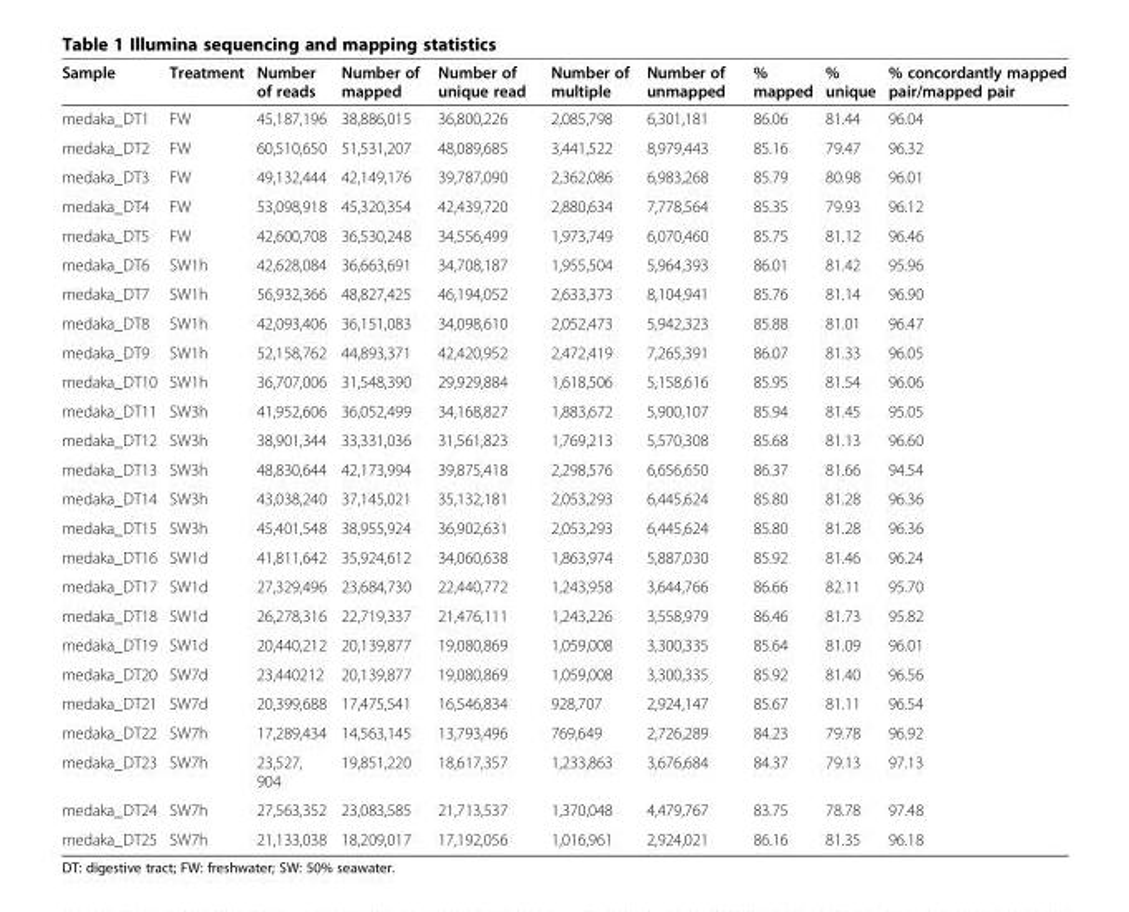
<table><thead><tr><td>Sample</td><td>Treatment</td><td>Number of reads</td><td>Number of mapped</td><td>Number of unique read</td><td>Number of multiple</td><td>Number of unmapped</td><td>% mapped</td><td>% unique</td><td>% concordantly mapped pair/mapped pair</td></tr></thead><tbody><tr><td>medaka_DT1</td><td>FW</td><td>45,187,196</td><td>38,886,015</td><td>36,800,226</td><td>2,085,798</td><td>6,301,181</td><td>86.06</td><td>81.44</td><td>96.04</td></tr><tr><td>medaka_DT2</td><td>FW</td><td>60,510,650</td><td>51,531,207</td><td>48,089,685</td><td>3,441,522</td><td>8,979,443</td><td>85.16</td><td>79.47</td><td>96.32</td></tr><tr><td>medaka_DT3</td><td>FW</td><td>49,132,444</td><td>42,149,176</td><td>39,787,090</td><td>2,362,086</td><td>6,983,268</td><td>85.79</td><td>80.98</td><td>96.01</td></tr><tr><td>medaka_DT4</td><td>FW</td><td>53,098,918</td><td>45,320,354</td><td>42,439,720</td><td>2,880,634</td><td>7,778,564</td><td>85.35</td><td>79.93</td><td>96.12</td></tr><tr><td>medaka_DT5</td><td>FW</td><td>42,600,708</td><td>36,530,248</td><td>34,556,499</td><td>1,973,749</td><td>6,070,460</td><td>85.75</td><td>81.12</td><td>96.46</td></tr><tr><td>medaka_DT6</td><td>SW1h</td><td>42,628,084</td><td>36,663,691</td><td>34,708,187</td><td>1,955,504</td><td>5,964,393</td><td>86.01</td><td>81.42</td><td>95.96</td></tr><tr><td>medaka_DT7</td><td>SW1h</td><td>56,932,366</td><td>48,827,425</td><td>46,194,052</td><td>2,633,373</td><td>8,104,941</td><td>85.76</td><td>81.14</td><td>96.90</td></tr><tr><td>medaka_DT8</td><td>SW1h</td><td>42,093,406</td><td>36,151,083</td><td>34,098,610</td><td>2,052,473</td><td>5,942,323</td><td>85.88</td><td>81.01</td><td>96.47</td></tr><tr><td>medaka_DT9</td><td>SW1h</td><td>52,158,762</td><td>44,893,371</td><td>42,420,952</td><td>2,472,419</td><td>7,265,391</td><td>86.07</td><td>81.33</td><td>96.05</td></tr><tr><td>medaka_DT10</td><td>SW1h</td><td>36,707,006</td><td>31,548,390</td><td>29,929,884</td><td>1,618,506</td><td>5,158,616</td><td>85.95</td><td>81.54</td><td>96.06</td></tr><tr><td>medaka_DT11</td><td>SW3h</td><td>41,952,606</td><td>36,052,499</td><td>34,168,827</td><td>1,883,672</td><td>5,900,107</td><td>85.94</td><td>81.45</td><td>95.05</td></tr><tr><td>medaka_DT12</td><td>SW3h</td><td>38,901,344</td><td>33,331,036</td><td>31,561,823</td><td>1,769,213</td><td>5,570,308</td><td>85.68</td><td>81.13</td><td>96.60</td></tr><tr><td>medaka_DT13</td><td>SW3h</td><td>48,830,644</td><td>42,173,994</td><td>39,875,418</td><td>2,298,576</td><td>6,656,650</td><td>86.37</td><td>81.66</td><td>94.54</td></tr><tr><td>medaka_DT14</td><td>SW3h</td><td>43,038,240</td><td>37,145,021</td><td>35,132,181</td><td>2,053,293</td><td>6,445,624</td><td>85.80</td><td>81.28</td><td>96.36</td></tr><tr><td>medaka_DT15</td><td>SW3h</td><td>45,401,548</td><td>38,955,924</td><td>36,902,631</td><td>2,053,293</td><td>6,445,624</td><td>85.80</td><td>81.28</td><td>96.36</td></tr><tr><td>medaka_DT16</td><td>SW1d</td><td>41,811,642</td><td>35,924,612</td><td>34,060,638</td><td>1,863,974</td><td>5,887,030</td><td>85.92</td><td>81.46</td><td>96.24</td></tr><tr><td>medaka_DT17</td><td>SW1d</td><td>27,329,496</td><td>23,684,730</td><td>22,440,772</td><td>1,243,958</td><td>3,644,766</td><td>86.66</td><td>82.11</td><td>95.70</td></tr><tr><td>medaka_DT18</td><td>SW1d</td><td>26,278,316</td><td>22,719,337</td><td>21,476,111</td><td>1,243,226</td><td>3,558,979</td><td>86.46</td><td>81.73</td><td>95.82</td></tr><tr><td>medaka_DT19</td><td>SW1d</td><td>20,440,212</td><td>20,139,877</td><td>19,080,869</td><td>1,059,008</td><td>3,300,335</td><td>85.64</td><td>81.09</td><td>96.01</td></tr><tr><td>medaka_DT20</td><td>SW7d</td><td>23,440212</td><td>20,139,877</td><td>19,080,869</td><td>1,059,008</td><td>3,300,335</td><td>85.92</td><td>81.40</td><td>96.56</td></tr><tr><td>medaka_DT21</td><td>SW7d</td><td>20,399,688</td><td>17,475,541</td><td>16,546,834</td><td>928,707</td><td>2,924,147</td><td>85.67</td><td>81.11</td><td>96.54</td></tr><tr><td>medaka_DT22</td><td>SW7h</td><td>17,289,434</td><td>14,563,145</td><td>13,793,496</td><td>769,649</td><td>2,726,289</td><td>84.23</td><td>79.78</td><td>96.92</td></tr><tr><td>medaka_DT23</td><td>SW7h</td><td>23,527, 904</td><td>19,851,220</td><td>18,617,357</td><td>1,233,863</td><td>3,676,684</td><td>84.37</td><td>79.13</td><td>97.13</td></tr><tr><td>medaka_DT24</td><td>SW7h</td><td>27,563,352</td><td>23,083,585</td><td>21,713,537</td><td>1,370,048</td><td>4,479,767</td><td>83.75</td><td>78.78</td><td>97.48</td></tr><tr><td>medaka_DT25</td><td>SW7h</td><td>21,133,038</td><td>18,209,017</td><td>17,192,056</td><td>1,016,961</td><td>2,924,021</td><td>86.16</td><td>81.35</td><td>96.18</td></tr></tbody></table>